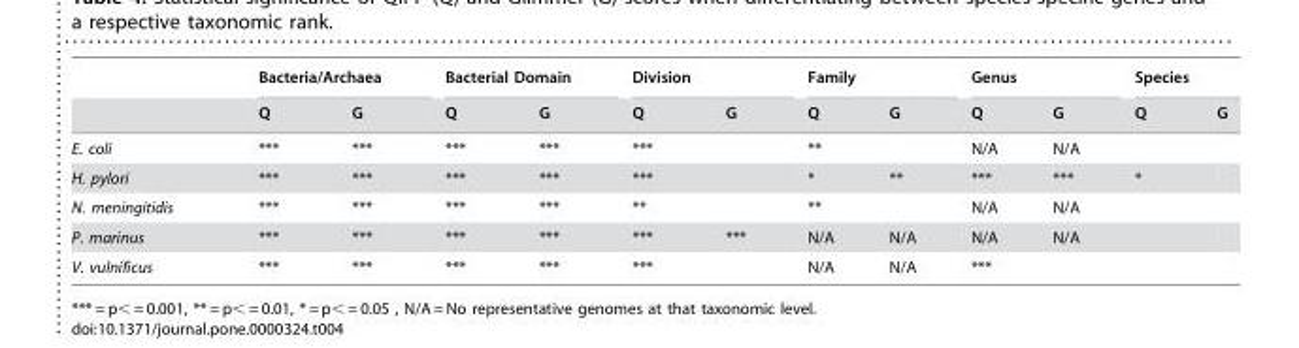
<table><thead><tr><td rowspan="2"></td><td colspan="2">Bacteria/Archaea</td><td colspan="2">Bacterial Domain</td><td colspan="2">Division</td><td colspan="2">Family</td><td colspan="2">Genus</td><td colspan="2">Species</td></tr><tr><td>Q</td><td>G</td><td>Q</td><td>G</td><td>Q</td><td>G</td><td>Q</td><td>G</td><td>Q</td><td>G</td><td>Q</td><td>G</td></tr></thead><tbody><tr><td>E. coli</td><td>***</td><td>***</td><td>***</td><td>***</td><td>***</td><td></td><td>**</td><td></td><td>N/A</td><td>N/A</td><td></td><td></td></tr><tr><td>H. pylori</td><td>***</td><td>***</td><td>***</td><td>***</td><td>***</td><td></td><td>*</td><td>**</td><td>***</td><td>***</td><td>*</td><td></td></tr><tr><td>N. meningitidis</td><td>***</td><td>***</td><td>***</td><td>***</td><td>**</td><td></td><td>**</td><td></td><td>N/A</td><td>N/A</td><td></td><td></td></tr><tr><td>P. marinus</td><td>***</td><td>***</td><td>***</td><td>***</td><td>***</td><td>***</td><td>N/A</td><td>N/A</td><td>N/A</td><td>N/A</td><td></td><td></td></tr><tr><td>V. vulnificus</td><td>***</td><td>***</td><td>***</td><td>***</td><td>***</td><td></td><td>N/A</td><td>N/A</td><td>***</td><td></td><td></td><td></td></tr></tbody></table>